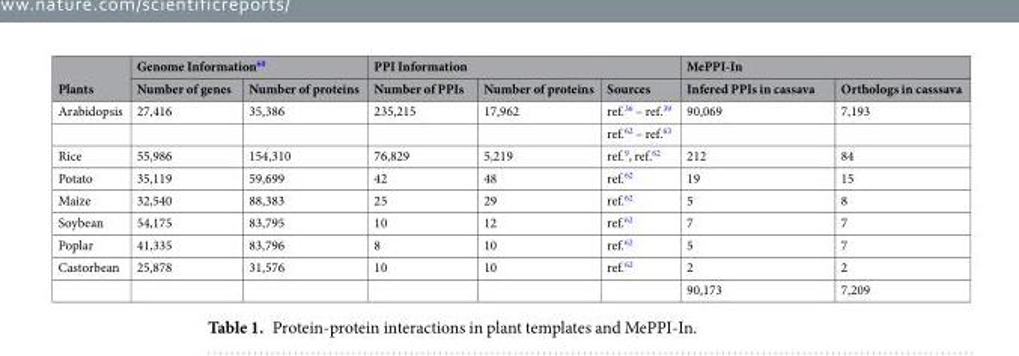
<table><thead><tr><td rowspan="2">Plants</td><td colspan="2">Genome Information<sup>60</sup></td><td colspan="3">PPI Information</td><td colspan="2">MePPI-In</td></tr><tr><td>Number of genes</td><td>Number of proteins</td><td>Number of PPIs</td><td>Number of proteins</td><td>Sources</td><td>Infered PPIs in cassava</td><td>Orthologs in casssava</td></tr></thead><tbody><tr><td rowspan="2">Arabidopsis</td><td>27,416</td><td>35,386</td><td>235,215</td><td>17,962</td><td>ref.<sup>36</sup> – ref.<sup>39</sup></td><td>90,069</td><td>7,193</td></tr><tr><td></td><td></td><td></td><td></td><td>ref.<sup>62</sup> – ref.<sup>63</sup></td><td></td><td></td></tr><tr><td>Rice</td><td>55,986</td><td>154,310</td><td>76,829</td><td>5,219</td><td>ref.<sup>9</sup>, ref.<sup>62</sup></td><td>212</td><td>84</td></tr><tr><td>Potato</td><td>35,119</td><td>59,699</td><td>42</td><td>48</td><td>ref.<sup>62</sup></td><td>19</td><td>15</td></tr><tr><td>Maize</td><td>32,540</td><td>88,383</td><td>25</td><td>29</td><td>ref.<sup>62</sup></td><td>5</td><td>8</td></tr><tr><td>Soybean</td><td>54,175</td><td>83,795</td><td>10</td><td>12</td><td>ref.<sup>62</sup></td><td>7</td><td>7</td></tr><tr><td>Poplar</td><td>41,335</td><td>83,796</td><td>8</td><td>10</td><td>ref.<sup>62</sup></td><td>5</td><td>7</td></tr><tr><td rowspan="2">Castorbean</td><td>25,878</td><td>31,576</td><td>10</td><td>10</td><td>ref.<sup>62</sup></td><td>2</td><td>2</td></tr><tr><td></td><td></td><td></td><td></td><td></td><td>90,173</td><td>7,209</td></tr></tbody></table>